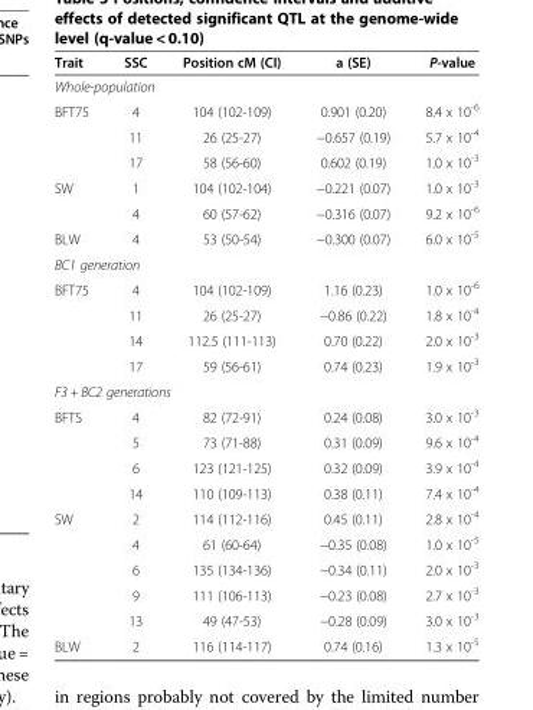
<table><thead><tr><td>Trait</td><td>SSC</td><td>Position cM (CI)</td><td>a (SE)</td><td>P-value</td></tr></thead><tbody><tr><td colspan="5">Whole-population</td></tr><tr><td rowspan="3">BFT75</td><td>4</td><td>104 (102-109)</td><td>0.901 (0.20)</td><td>8.4 x 10<sup>-6</sup></td></tr><tr><td>11</td><td>26 (25-27)</td><td>−0.657 (0.19)</td><td>5.7 x 10<sup>-4</sup></td></tr><tr><td>17</td><td>58 (56-60)</td><td>0.602 (0.19)</td><td>1.0 x 10<sup>-3</sup></td></tr><tr><td rowspan="2">SW</td><td>1</td><td>104 (102-104)</td><td>−0.221 (0.07)</td><td>1.0 x 10<sup>-3</sup></td></tr><tr><td>4</td><td>60 (57-62)</td><td>−0.316 (0.07)</td><td>9.2 x 10<sup>-6</sup></td></tr><tr><td>BLW</td><td>4</td><td>53 (50-54)</td><td>−0.300 (0.07)</td><td>6.0 x 10<sup>-5</sup></td></tr><tr><td colspan="5">BC1 generation</td></tr><tr><td rowspan="4">BFT75</td><td>4</td><td>104 (102-109)</td><td>1.16 (0.23)</td><td>1.0 x 10<sup>-6</sup></td></tr><tr><td>11</td><td>26 (25-27)</td><td>−0.86 (0.22)</td><td>1.8 x 10<sup>-4</sup></td></tr><tr><td>14</td><td>112.5 (111-113)</td><td>0.70 (0.22)</td><td>2.0 x 10<sup>-3</sup></td></tr><tr><td>17</td><td>59 (56-61)</td><td>0.74 (0.23)</td><td>1.9 x 10<sup>-3</sup></td></tr><tr><td colspan="5">F3 + BC2 generations</td></tr><tr><td rowspan="4">BFTS</td><td>4</td><td>82 (72-91)</td><td>0.24 (0.08)</td><td>3.0 x 10<sup>-3</sup></td></tr><tr><td>5</td><td>73 (71-88)</td><td>0.31 (0.09)</td><td>9.6 x 10<sup>-4</sup></td></tr><tr><td>6</td><td>123 (121-125)</td><td>0.32 (0.09)</td><td>3.9 x 10<sup>-4</sup></td></tr><tr><td>14</td><td>110 (109-113)</td><td>0.38 (0.11)</td><td>7.4 x 10<sup>-4</sup></td></tr><tr><td rowspan="5">SW</td><td>2</td><td>114 (112-116)</td><td>0.45 (0.11)</td><td>2.8 x 10<sup>-4</sup></td></tr><tr><td>4</td><td>61 (60-64)</td><td>−0.35 (0.08)</td><td>1.0 x 10<sup>-5</sup></td></tr><tr><td>6</td><td>135 (134-136)</td><td>−0.34 (0.11)</td><td>2.0 x 10<sup>-3</sup></td></tr><tr><td>9</td><td>111 (106-113)</td><td>−0.23 (0.08)</td><td>2.7 x 10<sup>-3</sup></td></tr><tr><td>13</td><td>49 (47-53)</td><td>−0.28 (0.09)</td><td>3.0 x 10<sup>-3</sup></td></tr><tr><td>BLW</td><td>2</td><td>116 (114-117)</td><td>0.74 (0.16)</td><td>1.3 x 10<sup>-5</sup></td></tr></tbody></table>